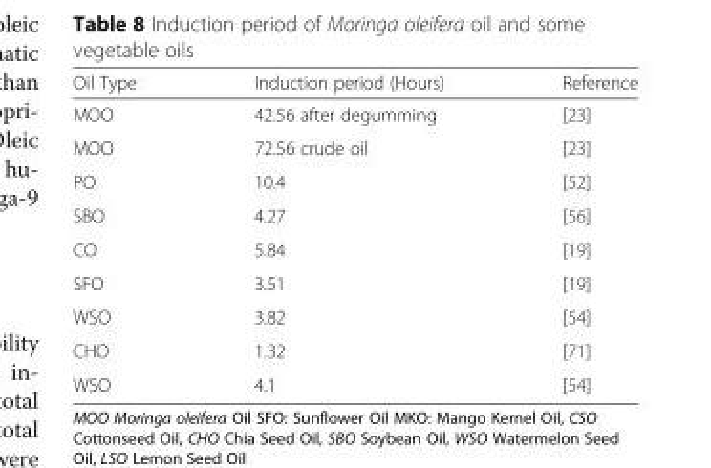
<table><thead><tr><td>Oil Type</td><td>Induction period (Hours)</td><td>Reference</td></tr></thead><tbody><tr><td>MOO</td><td>42.56 after degumming</td><td>[23]</td></tr><tr><td>MOO</td><td>72.56 crude oil</td><td>[23]</td></tr><tr><td>PO</td><td>10.4</td><td>[52]</td></tr><tr><td>SBO</td><td>4.27</td><td>[56]</td></tr><tr><td>CO</td><td>5.84</td><td>[19]</td></tr><tr><td>SFO</td><td>3.51</td><td>[19]</td></tr><tr><td>WSO</td><td>3.82</td><td>[54]</td></tr><tr><td>CHO</td><td>1.32</td><td>[71]</td></tr><tr><td>WSO</td><td>4.1</td><td>[54]</td></tr></tbody></table>